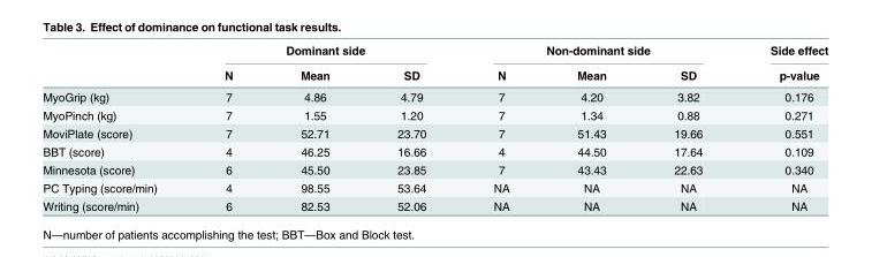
<table><thead><tr><td rowspan="2"></td><td colspan="3">Dominant side</td><td colspan="3">Non-dominant side</td><td rowspan="2">Side effect p-value</td></tr><tr><td>N</td><td>Mean</td><td>SD</td><td>N</td><td>Mean</td><td>SD</td></tr></thead><tbody><tr><td>MyoGrip (kg)</td><td>7</td><td>4.86</td><td>4.79</td><td>7</td><td>4.20</td><td>3.82</td><td>0.176</td></tr><tr><td>MyoPinch (kg)</td><td>7</td><td>1.55</td><td>1.20</td><td>7</td><td>1.34</td><td>0.88</td><td>0.271</td></tr><tr><td>MoviPlate (score)</td><td>7</td><td>52.71</td><td>23.70</td><td>7</td><td>51.43</td><td>19.66</td><td>0.551</td></tr><tr><td>BBT (score)</td><td>4</td><td>46.25</td><td>16.66</td><td>4</td><td>44.50</td><td>17.64</td><td>0.109</td></tr><tr><td>Minnesota (score)</td><td>6</td><td>45.50</td><td>23.85</td><td>7</td><td>43.43</td><td>22.63</td><td>0.340</td></tr><tr><td>PC Typing (score/min)</td><td>4</td><td>98.55</td><td>53.64</td><td>NA</td><td>NA</td><td>NA</td><td>NA</td></tr><tr><td>Writing (score/min)</td><td>6</td><td>82.53</td><td>52.06</td><td>NA</td><td>NA</td><td>NA</td><td>NA</td></tr></tbody></table>